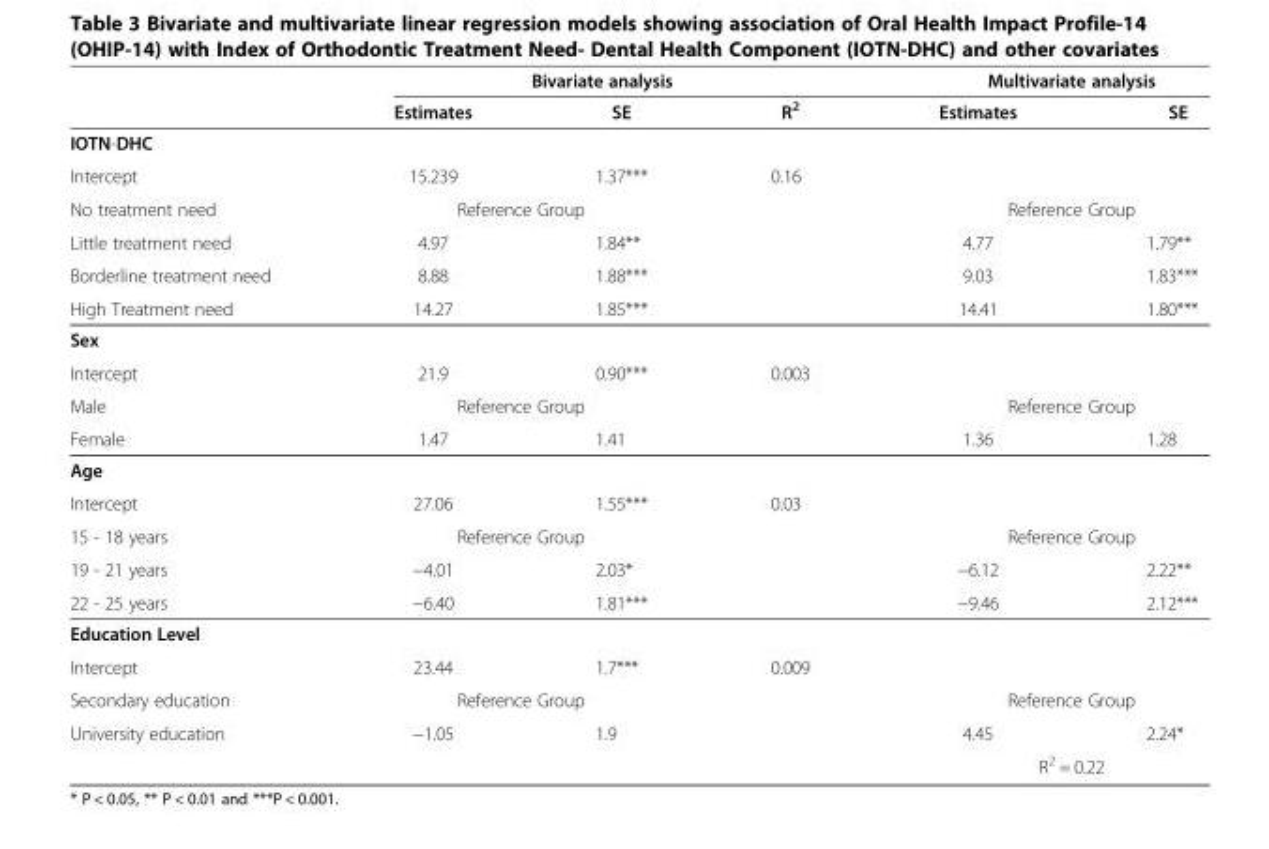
<table><thead><tr><td rowspan="2"></td><td colspan="3">Bivariate analysis</td><td colspan="2">Multivariate analysis</td></tr><tr><td>Estimates</td><td>SE</td><td>R<sup>2</sup></td><td>Estimates</td><td>SE</td></tr></thead><tbody><tr><td colspan="6">IOTN-DHC</td></tr><tr><td>Intercept</td><td>15.239</td><td>1.37***</td><td>0.16</td><td></td><td></td></tr><tr><td>No treatment need</td><td colspan="2">Reference Group</td><td rowspan="3"></td><td colspan="2">Reference Group</td></tr><tr><td>Little treatment need</td><td>4.97</td><td>1.84**</td><td>4.77</td><td>1.79**</td></tr><tr><td>Borderline treatment need</td><td>8.88</td><td>1.88***</td><td>9.03</td><td>1.83***</td></tr><tr><td>High Treatment need</td><td>14.27</td><td>1.85***</td><td></td><td>14.41</td><td>1.80***</td></tr><tr><td colspan="6">Sex</td></tr><tr><td>Intercept</td><td>21.9</td><td>0.90***</td><td>0.003</td><td></td><td></td></tr><tr><td>Male</td><td colspan="2">Reference Group</td><td></td><td colspan="2">Reference Group</td></tr><tr><td>Female</td><td>1.47</td><td>1.41</td><td></td><td>1.36</td><td>1.28</td></tr><tr><td colspan="6">Age</td></tr><tr><td>Intercept</td><td>27.06</td><td>1.55***</td><td>0.03</td><td></td><td></td></tr><tr><td>15 - 18 years</td><td colspan="2">Reference Group</td><td rowspan="2"></td><td colspan="2">Reference Group</td></tr><tr><td>19 - 21 years</td><td>−4.01</td><td>2.03*</td><td>−6.12</td><td>2.22**</td></tr><tr><td>22 - 25 years</td><td>−6.40</td><td>1.81***</td><td></td><td>−9.46</td><td>2.12***</td></tr><tr><td colspan="6">Education Level</td></tr><tr><td>Intercept</td><td>23.44</td><td>1.7***</td><td>0.009</td><td></td><td></td></tr><tr><td>Secondary education</td><td colspan="2">Reference Group</td><td rowspan="2"></td><td colspan="2">Reference Group</td></tr><tr><td rowspan="2">University education</td><td>−1.05</td><td>1.9</td><td>4.45</td><td>2.24*</td></tr><tr><td></td><td></td><td></td><td colspan="2">R<sup>2</sup> = 0.22</td></tr></tbody></table>